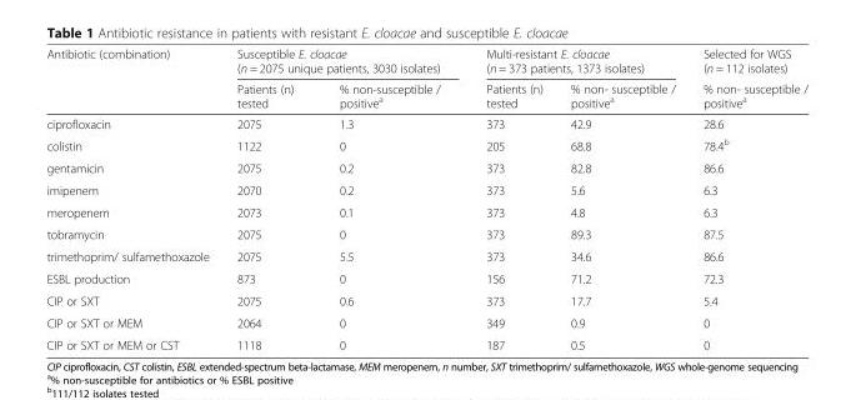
<table><thead><tr><td rowspan="2">Antibiotic (combination)</td><td colspan="2">Susceptible E. cloacae (n = 2075 unique patients, 3030 isolates)</td><td colspan="2">Multi-resistant E. cloacae (n = 373 patients, 1373 isolates)</td><td rowspan="2">Selected for WGS (n = 112 isolates) % non- susceptible / positive<sup>a</sup></td></tr><tr><td>Patients (n) tested</td><td>% non-susceptible / positive<sup>a</sup></td><td>Patients (n) tested</td><td>% non- susceptible / positive<sup>a</sup></td></tr></thead><tbody><tr><td>ciprofloxacin</td><td>2075</td><td>1.3</td><td>373</td><td>42.9</td><td>28.6</td></tr><tr><td>colistin</td><td>1122</td><td>0</td><td>205</td><td>68.8</td><td>78.4<sup>b</sup></td></tr><tr><td>gentamicin</td><td>2075</td><td>0.2</td><td>373</td><td>82.8</td><td>86.6</td></tr><tr><td>imipenem</td><td>2070</td><td>0.2</td><td>373</td><td>5.6</td><td>6.3</td></tr><tr><td>meropenem</td><td>2073</td><td>0.1</td><td>373</td><td>4.8</td><td>6.3</td></tr><tr><td>tobramycin</td><td>2075</td><td>0</td><td>373</td><td>89.3</td><td>87.5</td></tr><tr><td>trimethoprim/ sulfamethoxazole</td><td>2075</td><td>5.5</td><td>373</td><td>34.6</td><td>86.6</td></tr><tr><td>ESBL production</td><td>873</td><td>0</td><td>156</td><td>71.2</td><td>72.3</td></tr><tr><td>CIP or SXT</td><td>2075</td><td>0.6</td><td>373</td><td>17.7</td><td>5.4</td></tr><tr><td>CIP or SXT or MEM</td><td>2064</td><td>0</td><td>349</td><td>0.9</td><td>0</td></tr><tr><td>CIP or SXT or MEM or CST</td><td>1118</td><td>0</td><td>187</td><td>0.5</td><td>0</td></tr></tbody></table>